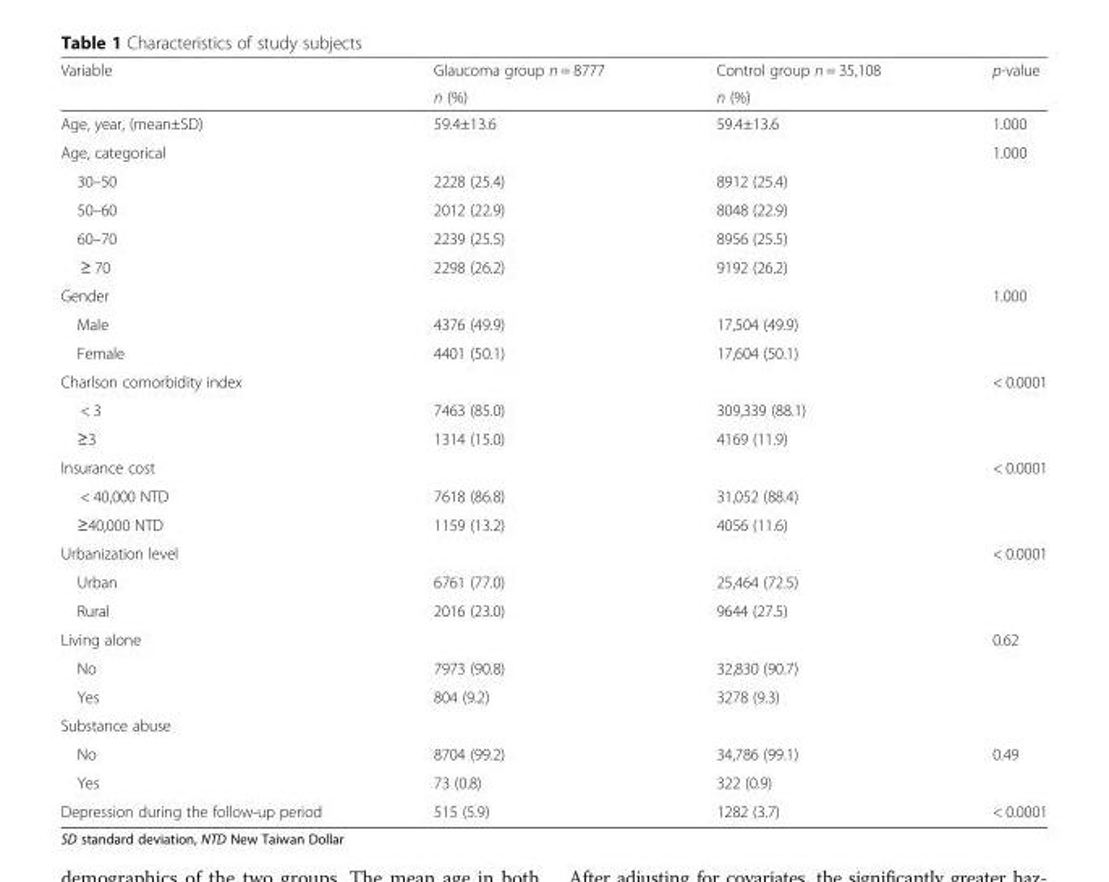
<table><thead><tr><td rowspan="2">Variable</td><td rowspan="2">Glaucoma group n = 8777 n (%)</td><td rowspan="2">Control group n = 35,108 n (%)</td><td rowspan="2">p-value</td></tr><tr></tr></thead><tbody><tr><td>Age, year, (mean±SD)</td><td>59.4±13.6</td><td>59.4±13.6</td><td>1.000</td></tr><tr><td>Age, categorical</td><td></td><td></td><td>1.000</td></tr><tr><td>30–50</td><td>2228 (25.4)</td><td>8912 (25.4)</td><td></td></tr><tr><td>50–60</td><td>2012 (22.9)</td><td>8048 (22.9)</td><td></td></tr><tr><td>60–70</td><td>2239 (25.5)</td><td>8956 (25.5)</td><td></td></tr><tr><td>≥ 70</td><td>2298 (26.2)</td><td>9192 (26.2)</td><td></td></tr><tr><td>Gender</td><td></td><td></td><td>1.000</td></tr><tr><td>Male</td><td>4376 (49.9)</td><td>17,504 (49.9)</td><td></td></tr><tr><td>Female</td><td>4401 (50.1)</td><td>17,604 (50.1)</td><td></td></tr><tr><td>Charlson comorbidity index</td><td></td><td></td><td>&lt; 0.0001</td></tr><tr><td>&lt; 3</td><td>7463 (85.0)</td><td>309,339 (88.1)</td><td></td></tr><tr><td>≥3</td><td>1314 (15.0)</td><td>4169 (11.9)</td><td></td></tr><tr><td>Insurance cost</td><td></td><td></td><td>&lt; 0.0001</td></tr><tr><td>&lt; 40,000 NTD</td><td>7618 (86.8)</td><td>31,052 (88.4)</td><td></td></tr><tr><td>≥40,000 NTD</td><td>1159 (13.2)</td><td>4056 (11.6)</td><td></td></tr><tr><td>Urbanization level</td><td></td><td></td><td>&lt; 0.0001</td></tr><tr><td>Urban</td><td>6761 (77.0)</td><td>25,464 (72.5)</td><td></td></tr><tr><td>Rural</td><td>2016 (23.0)</td><td>9644 (27.5)</td><td></td></tr><tr><td>Living alone</td><td></td><td></td><td>0.62</td></tr><tr><td>No</td><td>7973 (90.8)</td><td>32,830 (90.7)</td><td></td></tr><tr><td>Yes</td><td>804 (9.2)</td><td>3278 (9.3)</td><td></td></tr><tr><td colspan="4">Substance abuse</td></tr><tr><td>No</td><td>8704 (99.2)</td><td>34,786 (99.1)</td><td>0.49</td></tr><tr><td>Yes</td><td>73 (0.8)</td><td>322 (0.9)</td><td></td></tr><tr><td>Depression during the follow-up period</td><td>515 (5.9)</td><td>1282 (3.7)</td><td>&lt; 0.0001</td></tr></tbody></table>